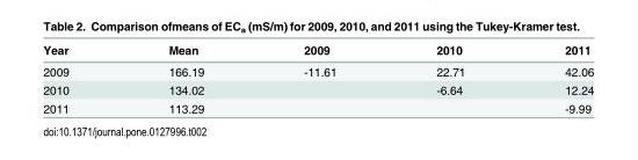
<table><thead><tr><td>Year</td><td>Mean</td><td>2009</td><td>2010</td><td>2011</td></tr></thead><tbody><tr><td>2009</td><td>166.19</td><td>-11.61</td><td>22.71</td><td>42.06</td></tr><tr><td>2010</td><td>134.02</td><td></td><td>-6.64</td><td>12.24</td></tr><tr><td>2011</td><td>113.29</td><td></td><td></td><td>-9.99</td></tr></tbody></table>